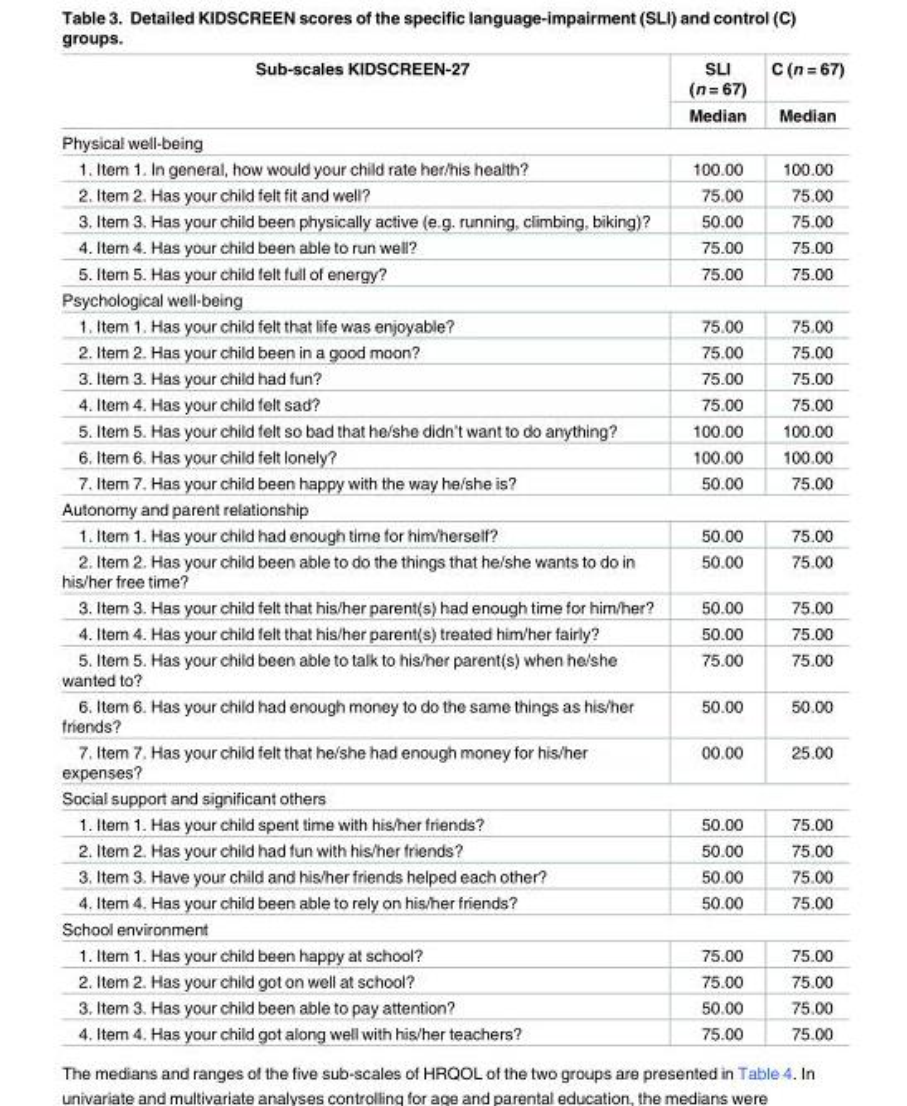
<table><thead><tr><td rowspan="2">Sub-scales KIDSCREEN-27</td><td rowspan="2">SLI (n = 67) Median</td><td rowspan="2">C (n = 67) Median</td></tr><tr></tr></thead><tbody><tr><td colspan="3">Physical well-being</td></tr><tr><td>1. Item 1. In general, how would your child rate her/his health?</td><td>100.00</td><td>100.00</td></tr><tr><td>2. Item 2. Has your child felt fit and well?</td><td>75.00</td><td>75.00</td></tr><tr><td>3. Item 3. Has your child been physically active (e.g. running, climbing, biking)?</td><td>50.00</td><td>75.00</td></tr><tr><td>4. Item 4. Has your child been able to run well?</td><td>75.00</td><td>75.00</td></tr><tr><td>5. Item 5. Has your child felt full of energy?</td><td>75.00</td><td>75.00</td></tr><tr><td colspan="3">Psychological well-being</td></tr><tr><td>1. Item 1. Has your child felt that life was enjoyable?</td><td>75.00</td><td>75.00</td></tr><tr><td>2. Item 2. Has your child been in a good moon?</td><td>75.00</td><td>75.00</td></tr><tr><td>3. Item 3. Has your child had fun?</td><td>75.00</td><td>75.00</td></tr><tr><td>4. Item 4. Has your child felt sad?</td><td>75.00</td><td>75.00</td></tr><tr><td>5. Item 5. Has your child felt so bad that he/she didn’t want to do anything?</td><td>100.00</td><td>100.00</td></tr><tr><td>6. Item 6. Has your child felt lonely?</td><td>100.00</td><td>100.00</td></tr><tr><td>7. Item 7. Has your child been happy with the way he/she is?</td><td>50.00</td><td>75.00</td></tr><tr><td colspan="3">Autonomy and parent relationship</td></tr><tr><td>1. Item 1. Has your child had enough time for him/herself?</td><td>50.00</td><td>75.00</td></tr><tr><td>2. Item 2. Has your child been able to do the things that he/she wants to do in his/her free time?</td><td>50.00</td><td>75.00</td></tr><tr><td>3. Item 3. Has your child felt that his/her parent(s) had enough time for him/her?</td><td>50.00</td><td>75.00</td></tr><tr><td>4. Item 4. Has your child felt that his/her parent(s) treated him/her fairly?</td><td>50.00</td><td>75.00</td></tr><tr><td>5. Item 5. Has your child been able to talk to his/her parent(s) when he/she wanted to?</td><td>75.00</td><td>75.00</td></tr><tr><td>6. Item 6. Has your child had enough money to do the same things as his/her friends?</td><td>50.00</td><td>50.00</td></tr><tr><td>7. Item 7. Has your child felt that he/she had enough money for his/her expenses?</td><td>00.00</td><td>25.00</td></tr><tr><td colspan="3">Social support and significant others</td></tr><tr><td>1. Item 1. Has your child spent time with his/her friends?</td><td>50.00</td><td>75.00</td></tr><tr><td>2. Item 2. Has your child had fun with his/her friends?</td><td>50.00</td><td>75.00</td></tr><tr><td>3. Item 3. Have your child and his/her friends helped each other?</td><td>50.00</td><td>75.00</td></tr><tr><td>4. Item 4. Has your child been able to rely on his/her friends?</td><td>50.00</td><td>75.00</td></tr><tr><td colspan="3">School environment</td></tr><tr><td>1. Item 1. Has your child been happy at school?</td><td>75.00</td><td>75.00</td></tr><tr><td>2. Item 2. Has your child got on well at school?</td><td>75.00</td><td>75.00</td></tr><tr><td>3. Item 3. Has your child been able to pay attention?</td><td>50.00</td><td>75.00</td></tr><tr><td>4. Item 4. Has your child got along well with his/her teachers?</td><td>75.00</td><td>75.00</td></tr></tbody></table>